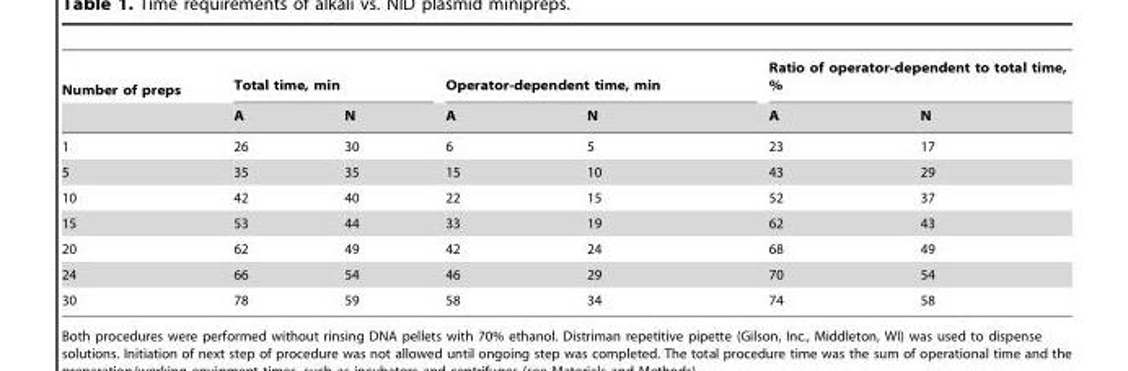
<table><thead><tr><td rowspan="2">Number of preps</td><td colspan="2">Total time, min</td><td colspan="2">Operator-dependent time, min</td><td colspan="2">Ratio of operator-dependent to total time, %</td></tr><tr><td>A</td><td>N</td><td>A</td><td>N</td><td>A</td><td>N</td></tr></thead><tbody><tr><td>1</td><td>26</td><td>30</td><td>6</td><td>5</td><td>23</td><td>17</td></tr><tr><td>5</td><td>35</td><td>35</td><td>15</td><td>10</td><td>43</td><td>29</td></tr><tr><td>10</td><td>42</td><td>40</td><td>22</td><td>15</td><td>52</td><td>37</td></tr><tr><td>15</td><td>53</td><td>44</td><td>33</td><td>19</td><td>62</td><td>43</td></tr><tr><td>20</td><td>62</td><td>49</td><td>42</td><td>24</td><td>68</td><td>49</td></tr><tr><td>24</td><td>66</td><td>54</td><td>46</td><td>29</td><td>70</td><td>54</td></tr><tr><td>30</td><td>78</td><td>59</td><td>58</td><td>34</td><td>74</td><td>58</td></tr></tbody></table>